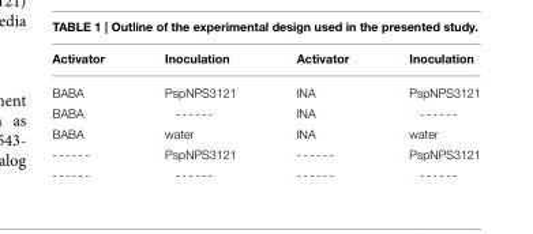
<table><thead><tr><td>Activator</td><td>Inoculation</td><td>Activator</td><td>Inoculation</td></tr></thead><tbody><tr><td>BABA</td><td>PspNPS3121</td><td>INA</td><td>PspNPS3121</td></tr><tr><td>BABA</td><td>- - - - - -</td><td>INA</td><td>- - - - - -</td></tr><tr><td>BABA</td><td>water</td><td>INA</td><td>water</td></tr><tr><td>- - - - - -</td><td>PspNPS3121</td><td>- - - - - -</td><td>PspNPS3121</td></tr><tr><td>- - - - - -</td><td>- - - - - -</td><td>- - - - - -</td><td>- - - - - -</td></tr></tbody></table>